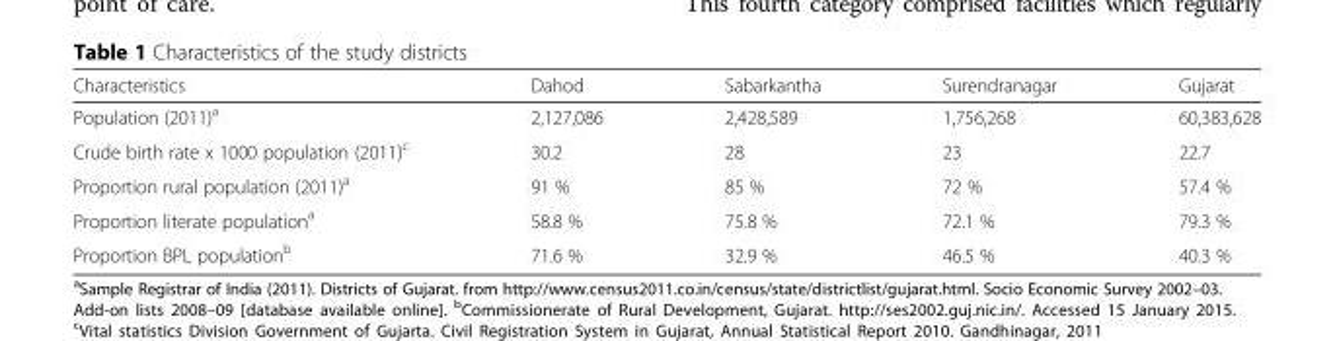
<table><thead><tr><td>Characteristics</td><td>Dahod</td><td>Sabarkantha</td><td>Surendranagar</td><td>Gujarat</td></tr></thead><tbody><tr><td>Population (2011)<sup>a</sup></td><td>2,127,086</td><td>2,428,589</td><td>1,756,268</td><td>60,383,628</td></tr><tr><td>Crude birth rate x 1000 population (2011)<sup>c</sup></td><td>30.2</td><td>28</td><td>23</td><td>22.7</td></tr><tr><td>Proportion rural population (2011)<sup>a</sup></td><td>91 %</td><td>85 %</td><td>72 %</td><td>57.4 %</td></tr><tr><td>Proportion literate population<sup>a</sup></td><td>58.8 %</td><td>75.8 %</td><td>72.1 %</td><td>79.3 %</td></tr><tr><td>Proportion BPL population<sup>b</sup></td><td>71.6 %</td><td>32.9 %</td><td>46.5 %</td><td>40.3 %</td></tr></tbody></table>